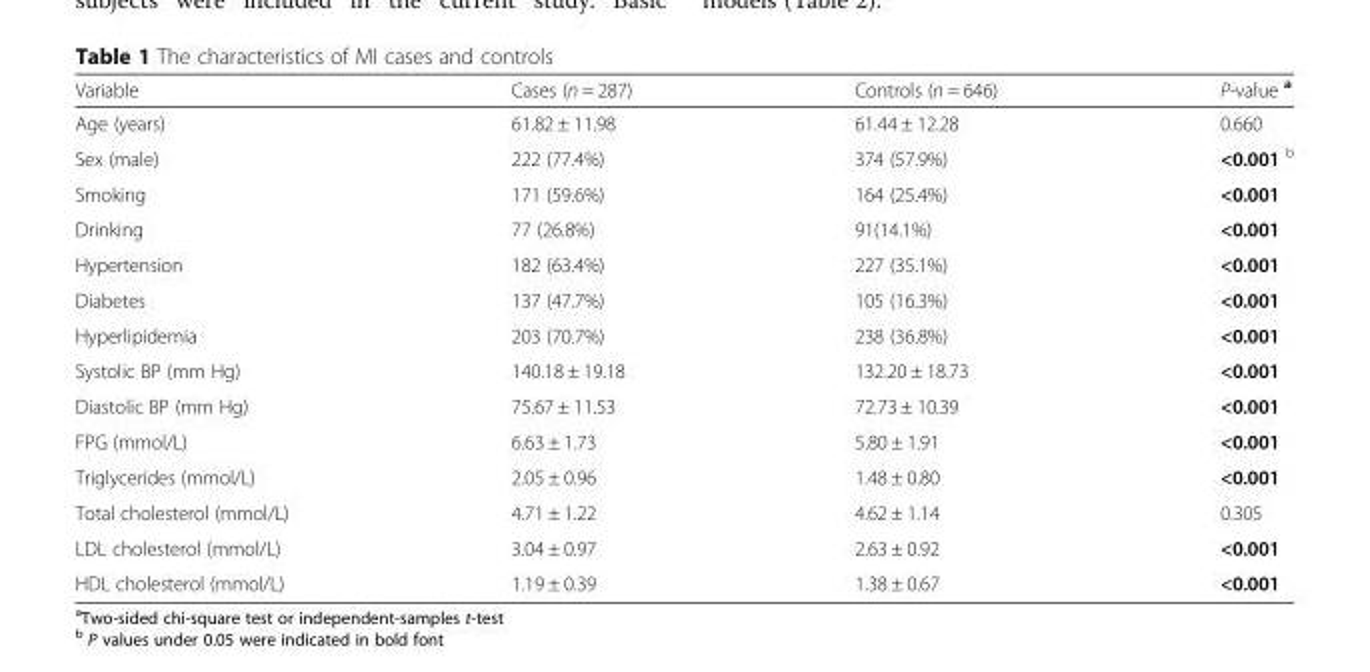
<table><thead><tr><td>Variable</td><td>Cases (n = 287)</td><td>Controls (n = 646)</td><td>P-value <sup>a</sup></td></tr></thead><tbody><tr><td>Age (years)</td><td>61.82 ± 11.98</td><td>61.44 ± 12.28</td><td>0.660</td></tr><tr><td>Sex (male)</td><td>222 (77.4%)</td><td>374 (57.9%)</td><td>&lt;0.001 <sup>b</sup></td></tr><tr><td>Smoking</td><td>171 (59.6%)</td><td>164 (25.4%)</td><td>&lt;0.001</td></tr><tr><td>Drinking</td><td>77 (26.8%)</td><td>91(14.1%)</td><td>&lt;0.001</td></tr><tr><td>Hypertension</td><td>182 (63.4%)</td><td>227 (35.1%)</td><td>&lt;0.001</td></tr><tr><td>Diabetes</td><td>137 (47.7%)</td><td>105 (16.3%)</td><td>&lt;0.001</td></tr><tr><td>Hyperlipidemia</td><td>203 (70.7%)</td><td>238 (36.8%)</td><td>&lt;0.001</td></tr><tr><td>Systolic BP (mm Hg)</td><td>140.18 ± 19.18</td><td>132.20 ± 18.73</td><td>&lt;0.001</td></tr><tr><td>Diastolic BP (mm Hg)</td><td>75.67 ± 11.53</td><td>72.73 ± 10.39</td><td>&lt;0.001</td></tr><tr><td>FPG (mmol/L)</td><td>6.63 ± 1.73</td><td>5.80 ± 1.91</td><td>&lt;0.001</td></tr><tr><td>Triglycerides (mmol/L)</td><td>2.05 ± 0.96</td><td>1.48 ± 0.80</td><td>&lt;0.001</td></tr><tr><td>Total cholesterol (mmol/L)</td><td>4.71 ± 1.22</td><td>4.62 ± 1.14</td><td>0.305</td></tr><tr><td>LDL cholesterol (mmol/L)</td><td>3.04 ± 0.97</td><td>2.63 ± 0.92</td><td>&lt;0.001</td></tr><tr><td>HDL cholesterol (mmol/L)</td><td>1.19 ± 0.39</td><td>1.38 ± 0.67</td><td>&lt;0.001</td></tr></tbody></table>